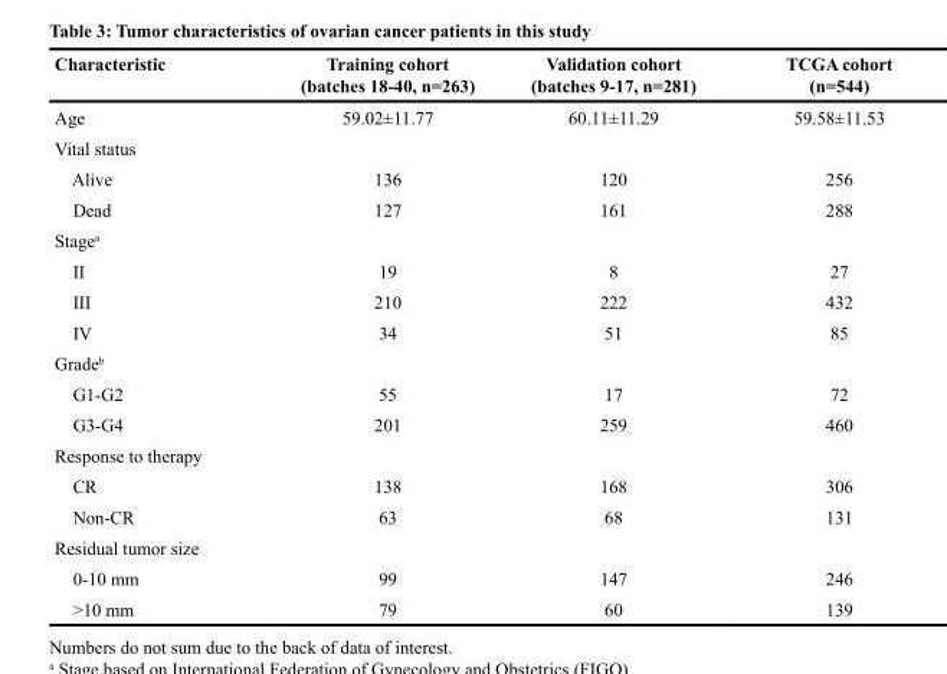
<table><thead><tr><td>Characteristic</td><td>Training cohort (batches 18-40, n=263)</td><td>Validation cohort (batches 9-17, n=281)</td><td>TCGA cohort (n=544)</td></tr></thead><tbody><tr><td>Age</td><td>59.02±11.77</td><td>60.11±11.29</td><td>59.58±11.53</td></tr><tr><td colspan="4">Vital status</td></tr><tr><td>Alive</td><td>136</td><td>120</td><td>256</td></tr><tr><td>Dead</td><td>127</td><td>161</td><td>288</td></tr><tr><td colspan="4">Stage<sup>a</sup></td></tr><tr><td>II</td><td>19</td><td>8</td><td>27</td></tr><tr><td>III</td><td>210</td><td>222</td><td>432</td></tr><tr><td>IV</td><td>34</td><td>51</td><td>85</td></tr><tr><td colspan="4">Grade<sup>b</sup></td></tr><tr><td>G1-G2</td><td>55</td><td>17</td><td>72</td></tr><tr><td>G3-G4</td><td>201</td><td>259</td><td>460</td></tr><tr><td colspan="4">Response to therapy</td></tr><tr><td>CR</td><td>138</td><td>168</td><td>306</td></tr><tr><td>Non-CR</td><td>63</td><td>68</td><td>131</td></tr><tr><td colspan="4">Residual tumor size</td></tr><tr><td>0-10 mm</td><td>99</td><td>147</td><td>246</td></tr><tr><td>&gt;10 mm</td><td>79</td><td>60</td><td>139</td></tr></tbody></table>